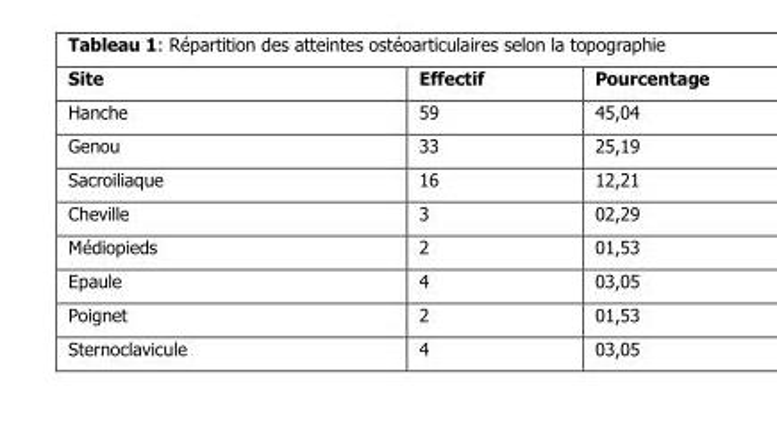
<table><thead><tr><td>Site</td><td>Effectif</td><td>Pourcentage</td></tr></thead><tbody><tr><td>Hanche</td><td>59</td><td>45,04</td></tr><tr><td>Genou</td><td>33</td><td>25,19</td></tr><tr><td>Sacroiliaque</td><td>16</td><td>12,21</td></tr><tr><td>Cheville</td><td>3</td><td>02,29</td></tr><tr><td>Médiopieds</td><td>2</td><td>01,53</td></tr><tr><td>Epaule</td><td>4</td><td>03,05</td></tr><tr><td>Poignet</td><td>2</td><td>01,53</td></tr><tr><td>Sternoclavicule</td><td>4</td><td>03,05</td></tr></tbody></table>